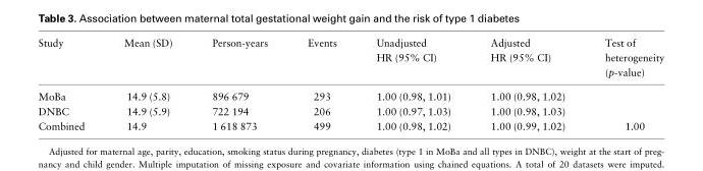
<table><thead><tr><td>Study</td><td>Mean (SD)</td><td>Person-years</td><td>Events</td><td>Unadjusted HR (95% CI)</td><td>Adjusted HR (95% CI)</td><td>Test of heterogeneity (p-value)</td></tr></thead><tbody><tr><td>MoBa</td><td>14.9 (5.8)</td><td>896 679</td><td>293</td><td>1.00 (0.98, 1.01)</td><td>1.00 (0.98, 1.02)</td><td></td></tr><tr><td>DNBC</td><td>14.9 (5.9)</td><td>722 194</td><td>206</td><td>1.00 (0.97, 1.03)</td><td>1.00 (0.98, 1.03)</td><td></td></tr><tr><td>Combined</td><td>14.9</td><td>1 618 873</td><td>499</td><td>1.00 (0.98, 1.02)</td><td>1.00 (0.99, 1.02)</td><td>1.00</td></tr></tbody></table>